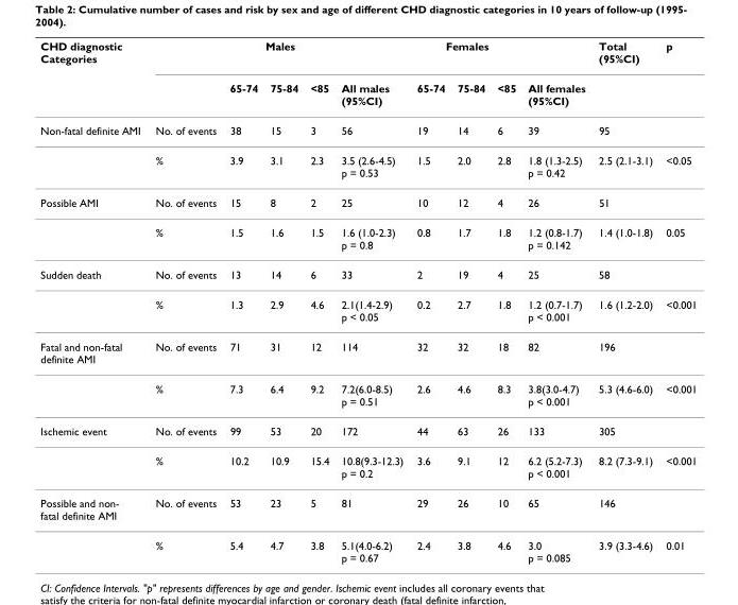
<table><thead><tr><td rowspan="2">CHD diagnostic Categories</td><td rowspan="2"></td><td colspan="3">Males</td><td rowspan="2">All males (95%CI)</td><td colspan="3">Females</td><td rowspan="2">All females (95%CI)</td><td rowspan="2">Total (95%CI)</td><td rowspan="2">p</td></tr><tr><td>65-74</td><td>75-84</td><td>&lt;85</td><td>65-74</td><td>75-84</td><td>&lt;85</td></tr></thead><tbody><tr><td rowspan="2">Non-fatal definite AMI</td><td>No. of events</td><td>38</td><td>15</td><td>3</td><td>56</td><td>19</td><td>14</td><td>6</td><td>39</td><td>95</td><td></td></tr><tr><td>%</td><td>3.9</td><td>3.1</td><td>2.3</td><td>3.5 (2.6-4.5) p = 0.53</td><td>1.5</td><td>2.0</td><td>2.8</td><td>1.8 (1.3-2.5) p = 0.42</td><td>2.5 (2.1-3.1)</td><td>&lt;0.05</td></tr><tr><td rowspan="2">Possible AMI</td><td>No. of events</td><td>15</td><td>8</td><td>2</td><td>25</td><td>10</td><td>12</td><td>4</td><td>26</td><td>51</td><td></td></tr><tr><td>%</td><td>1.5</td><td>1.6</td><td>1.5</td><td>1.6 (1.0-2.3) p = 0.8</td><td>0.8</td><td>1.7</td><td>1.8</td><td>1.2 (0.8-1.7) p = 0.142</td><td>1.4 (1.0-1.8)</td><td>0.05</td></tr><tr><td rowspan="2">Sudden death</td><td>No. of events</td><td>13</td><td>14</td><td>6</td><td>33</td><td>2</td><td>19</td><td>4</td><td>25</td><td>58</td><td></td></tr><tr><td>%</td><td>1.3</td><td>2.9</td><td>4.6</td><td>2.1(1.4-2.9) p &lt; 0.05</td><td>0.2</td><td>2.7</td><td>1.8</td><td>1.2 (0.7-1.7) p &lt; 0.001</td><td>1.6 (1.2-2.0)</td><td>&lt;0.001</td></tr><tr><td rowspan="2">Fatal and non-fatal definite AMI</td><td>No. of events</td><td>71</td><td>31</td><td>12</td><td>114</td><td>32</td><td>32</td><td>18</td><td>82</td><td>196</td><td></td></tr><tr><td>%</td><td>7.3</td><td>6.4</td><td>9.2</td><td>7.2(6.0-8.5) p = 0.51</td><td>2.6</td><td>4.6</td><td>8.3</td><td>3.8(3.0-4.7) p &lt; 0.001</td><td>5.3 (4.6-6.0)</td><td>&lt;0.001</td></tr><tr><td rowspan="2">Ischemic event</td><td>No. of events</td><td>99</td><td>53</td><td>20</td><td>172</td><td>44</td><td>63</td><td>26</td><td>133</td><td>305</td><td></td></tr><tr><td>%</td><td>10.2</td><td>10.9</td><td>15.4</td><td>10.8(9.3-12.3) p = 0.2</td><td>3.6</td><td>9.1</td><td>12</td><td>6.2 (5.2-7.3) p &lt; 0.001</td><td>8.2 (7.3-9.1)</td><td>&lt;0.001</td></tr><tr><td rowspan="2">Possible and non- fatal definite AMI</td><td>No. of events</td><td>53</td><td>23</td><td>5</td><td>81</td><td>29</td><td>26</td><td>10</td><td>65</td><td>146</td><td></td></tr><tr><td>%</td><td>5.4</td><td>4.7</td><td>3.8</td><td>5.1(4.0-6.2) p = 0.67</td><td>2.4</td><td>3.8</td><td>4.6</td><td>3.0 p = 0.085</td><td>3.9 (3.3-4.6)</td><td>0.01</td></tr></tbody></table>